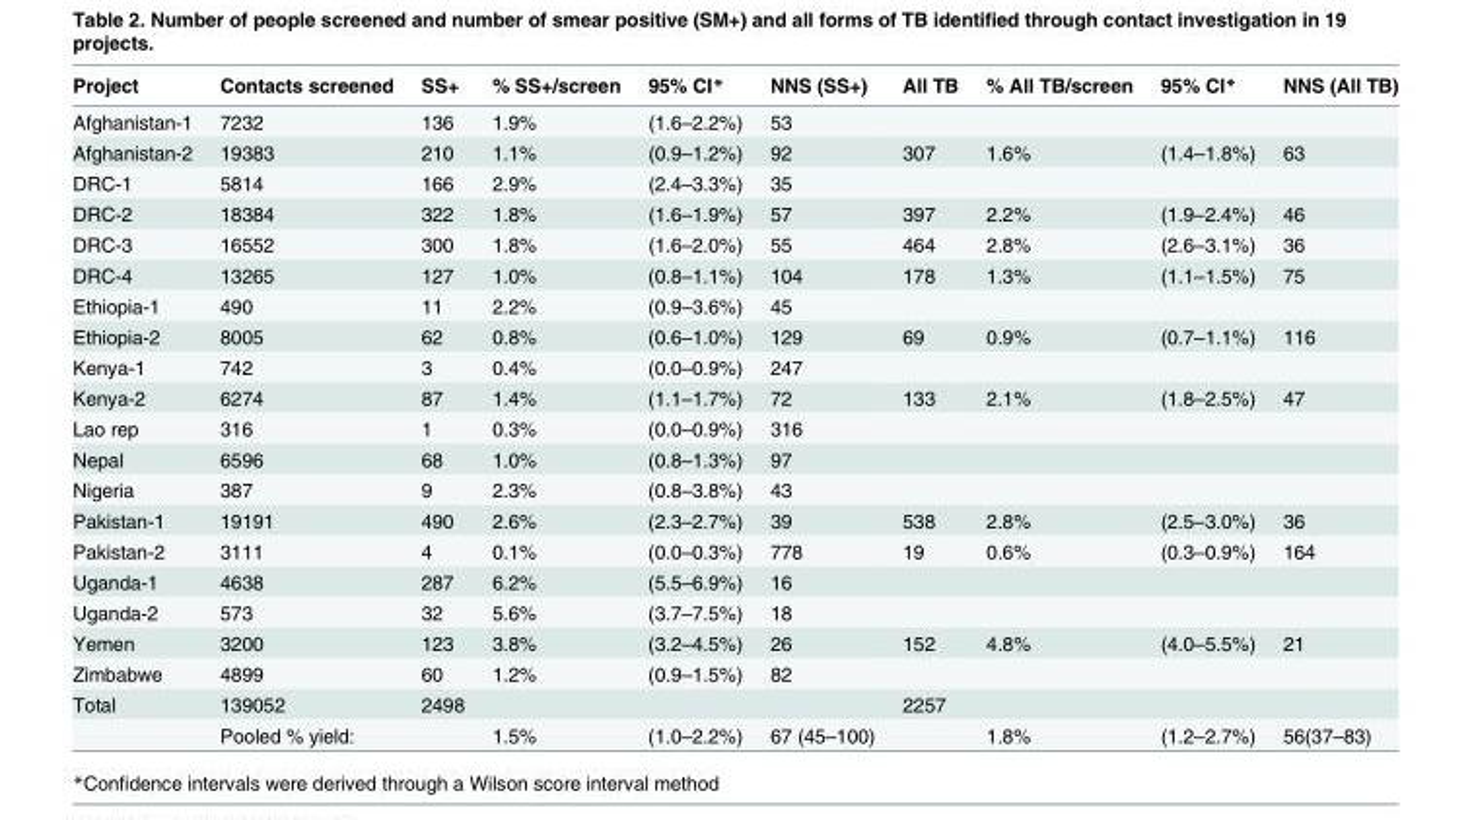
<table><thead><tr><td>Project</td><td>Contacts screened</td><td>SS+</td><td>% SS+/screen</td><td>95% CI*</td><td>NNS (SS+)</td><td>All TB</td><td>% All TB/screen</td><td>95% CI*</td><td>NNS (All TB)</td></tr></thead><tbody><tr><td>Afghanistan-1</td><td>7232</td><td>136</td><td>1.9%</td><td>(1.6–2.2%)</td><td>53</td><td></td><td></td><td></td><td></td></tr><tr><td>Afghanistan-2</td><td>19383</td><td>210</td><td>1.1%</td><td>(0.9–1.2%)</td><td>92</td><td>307</td><td>1.6%</td><td>(1.4–1.8%)</td><td>63</td></tr><tr><td>DRC-1</td><td>5814</td><td>166</td><td>2.9%</td><td>(2.4–3.3%)</td><td>35</td><td></td><td></td><td></td><td></td></tr><tr><td>DRC-2</td><td>18384</td><td>322</td><td>1.8%</td><td>(1.6–1.9%)</td><td>57</td><td>397</td><td>2.2%</td><td>(1.9–2.4%)</td><td>46</td></tr><tr><td>DRC-3</td><td>16552</td><td>300</td><td>1.8%</td><td>(1.6–2.0%)</td><td>55</td><td>464</td><td>2.8%</td><td>(2.6–3.1%)</td><td>36</td></tr><tr><td>DRC-4</td><td>13265</td><td>127</td><td>1.0%</td><td>(0.8–1.1%)</td><td>104</td><td>178</td><td>1.3%</td><td>(1.1–1.5%)</td><td>75</td></tr><tr><td>Ethiopia-1</td><td>490</td><td>11</td><td>2.2%</td><td>(0.9–3.6%)</td><td>45</td><td></td><td></td><td></td><td></td></tr><tr><td>Ethiopia-2</td><td>8005</td><td>62</td><td>0.8%</td><td>(0.6–1.0%)</td><td>129</td><td>69</td><td>0.9%</td><td>(0.7–1.1%)</td><td>116</td></tr><tr><td>Kenya-1</td><td>742</td><td>3</td><td>0.4%</td><td>(0.0–0.9%)</td><td>247</td><td></td><td></td><td></td><td></td></tr><tr><td>Kenya-2</td><td>6274</td><td>87</td><td>1.4%</td><td>(1.1–1.7%)</td><td>72</td><td>133</td><td>2.1%</td><td>(1.8–2.5%)</td><td>47</td></tr><tr><td>Lao rep</td><td>316</td><td>1</td><td>0.3%</td><td>(0.0–0.9%)</td><td>316</td><td></td><td></td><td></td><td></td></tr><tr><td>Nepal</td><td>6596</td><td>68</td><td>1.0%</td><td>(0.8–1.3%)</td><td>97</td><td></td><td></td><td></td><td></td></tr><tr><td>Nigeria</td><td>387</td><td>9</td><td>2.3%</td><td>(0.8–3.8%)</td><td>43</td><td></td><td></td><td></td><td></td></tr><tr><td>Pakistan-1</td><td>19191</td><td>490</td><td>2.6%</td><td>(2.3–2.7%)</td><td>39</td><td>538</td><td>2.8%</td><td>(2.5–3.0%)</td><td>36</td></tr><tr><td>Pakistan-2</td><td>3111</td><td>4</td><td>0.1%</td><td>(0.0–0.3%)</td><td>778</td><td>19</td><td>0.6%</td><td>(0.3–0.9%)</td><td>164</td></tr><tr><td>Uganda-1</td><td>4638</td><td>287</td><td>6.2%</td><td>(5.5–6.9%)</td><td>16</td><td></td><td></td><td></td><td></td></tr><tr><td>Uganda-2</td><td>573</td><td>32</td><td>5.6%</td><td>(3.7–7.5%)</td><td>18</td><td></td><td></td><td></td><td></td></tr><tr><td>Yemen</td><td>3200</td><td>123</td><td>3.8%</td><td>(3.2–4.5%)</td><td>26</td><td>152</td><td>4.8%</td><td>(4.0–5.5%)</td><td>21</td></tr><tr><td>Zimbabwe</td><td>4899</td><td>60</td><td>1.2%</td><td>(0.9–1.5%)</td><td>82</td><td></td><td></td><td></td><td></td></tr><tr><td rowspan="2">Total</td><td>139052</td><td>2498</td><td></td><td></td><td></td><td>2257</td><td></td><td></td><td></td></tr><tr><td colspan="2">Pooled % yield:</td><td>1.5%</td><td>(1.0–2.2%)</td><td>67 (45–100)</td><td></td><td>1.8%</td><td>(1.2–2.7%)</td><td>56(37–83)</td></tr></tbody></table>